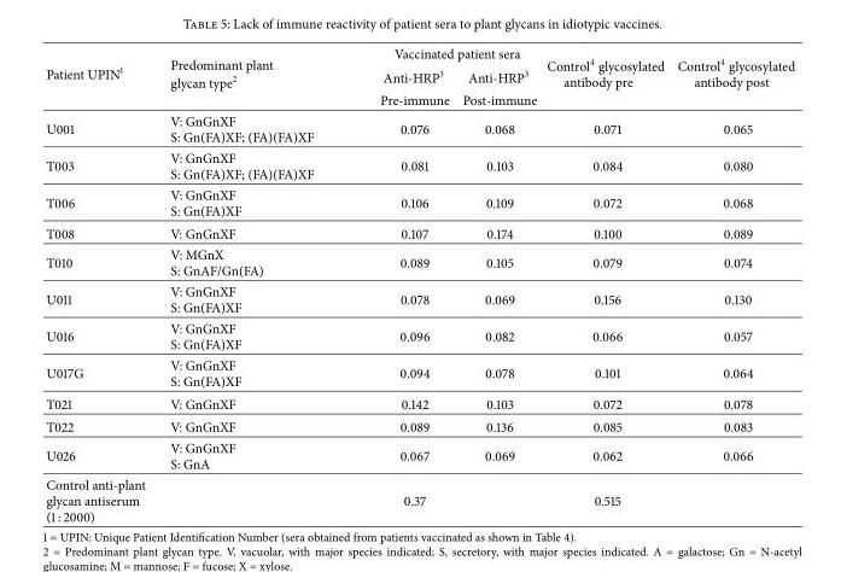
<table><thead><tr><td rowspan="3">Patient UPIN<sup>1</sup></td><td rowspan="3">Predominant plant glycan type<sup>2</sup></td><td colspan="2">Vaccinated patient sera</td><td rowspan="3">Control<sup>4</sup> glycosylated antibody pre</td><td rowspan="3">Control<sup>4</sup> glycosylated antibody post</td></tr><tr><td rowspan="2">Anti-HRP<sup>3</sup> Pre-immune</td><td rowspan="2">Anti-HRP<sup>3</sup> Post-immune</td></tr><tr></tr></thead><tbody><tr><td>U001</td><td>V: GnGnXF S: Gn(FA)XF; (FA)(FA)XF</td><td>0.076</td><td>0.068</td><td>0.071</td><td>0.065</td></tr><tr><td>T003</td><td>V: GnGnXF S: Gn(FA)XF; (FA)(FA)XF</td><td>0.081</td><td>0.103</td><td>0.084</td><td>0.080</td></tr><tr><td>T006</td><td>V: GnGnXF S: Gn(FA)XF</td><td>0.106</td><td>0.109</td><td>0.072</td><td>0.068</td></tr><tr><td>T008</td><td>V: GnGnXF</td><td>0.107</td><td>0.174</td><td>0.100</td><td>0.089</td></tr><tr><td>T010</td><td>V: MGnX S: GnAF/Gn(FA)</td><td>0.089</td><td>0.105</td><td>0.079</td><td>0.074</td></tr><tr><td>U011</td><td>V: GnGnXF S: Gn(FA)XF</td><td>0.078</td><td>0.069</td><td>0.156</td><td>0.130</td></tr><tr><td>U016</td><td>V: GnGnXF S: Gn(FA)XF</td><td>0.096</td><td>0.082</td><td>0.066</td><td>0.057</td></tr><tr><td>U017G</td><td>V: GnGnXF S: Gn(FA)XF</td><td>0.094</td><td>0.078</td><td>0.101</td><td>0.064</td></tr><tr><td>T021</td><td>V: GnGnXF</td><td>0.142</td><td>0.103</td><td>0.072</td><td>0.078</td></tr><tr><td>T022</td><td>V: GnGnXF</td><td>0.089</td><td>0.136</td><td>0.085</td><td>0.083</td></tr><tr><td>U026</td><td>V: GnGnXF S: GnA</td><td>0.067</td><td>0.069</td><td>0.062</td><td>0.066</td></tr><tr><td>Control anti-plant glycan antiserum (1 : 2000)</td><td></td><td>0.37</td><td></td><td>0.515</td><td></td></tr></tbody></table>